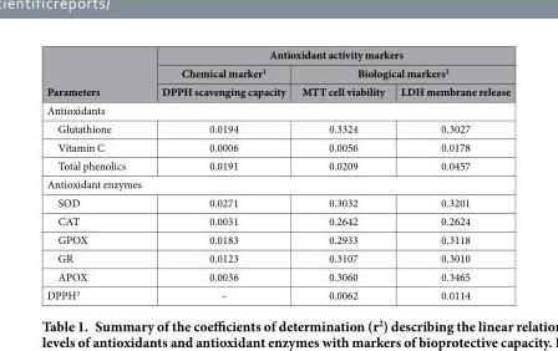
<table><thead><tr><td rowspan="3">Parameters</td><td colspan="3">Antioxidant activity markers</td></tr><tr><td rowspan="2">Chemical marker<sup>1</sup> DPPH scavenging capacity</td><td colspan="2">Biological markers<sup>2</sup></td></tr><tr><td>MTT cell viability</td><td>LDH membrane release</td></tr></thead><tbody><tr><td colspan="4">Antioxidants</td></tr><tr><td>Glutathione</td><td>0.0194</td><td>0.3324</td><td>0.3027</td></tr><tr><td>Vitamin C</td><td>0.0006</td><td>0.0056</td><td>0.0178</td></tr><tr><td>Total phenolics</td><td>0.0191</td><td>0.0209</td><td>0.0457</td></tr><tr><td colspan="4">Antioxidant enzymes</td></tr><tr><td>SOD</td><td>0.0271</td><td>0.3032</td><td>0.3201</td></tr><tr><td>CAT</td><td>0.0031</td><td>0.2642</td><td>0.2624</td></tr><tr><td>GPOX</td><td>0.0183</td><td>0.2933</td><td>0.3118</td></tr><tr><td>GR</td><td>0.0123</td><td>0.3107</td><td>0.3010</td></tr><tr><td>APOX</td><td>0.0036</td><td>0.3060</td><td>0.3465</td></tr><tr><td>DPPH<sup>3</sup></td><td>–</td><td>0.0062</td><td>0.0114</td></tr></tbody></table>